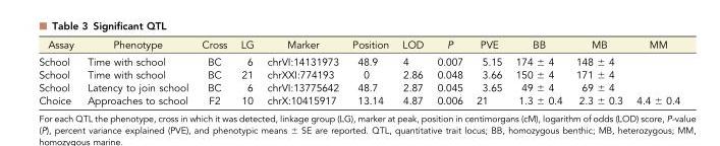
<table><thead><tr><td>Assay</td><td>Phenotype</td><td>Cross</td><td>LG</td><td>Marker</td><td>Position</td><td>LOD</td><td>P</td><td>PVE</td><td>BB</td><td>MB</td><td>MM</td></tr></thead><tbody><tr><td>School</td><td>Time with school</td><td>BC</td><td>6</td><td>chrVI:14131973</td><td>48.9</td><td>4</td><td>0.007</td><td>5.15</td><td>174 ± 4</td><td>148 ± 4</td><td></td></tr><tr><td>School</td><td>Time with school</td><td>BC</td><td>21</td><td>chrXXI:774193</td><td>0</td><td>2.86</td><td>0.048</td><td>3.66</td><td>150 ± 4</td><td>171 ± 4</td><td></td></tr><tr><td>School</td><td>Latency to join school</td><td>BC</td><td>6</td><td>chrVI:13775642</td><td>48.7</td><td>2.87</td><td>0.045</td><td>3.65</td><td>49 ± 4</td><td>69 ± 4</td><td></td></tr><tr><td>Choice</td><td>Approaches to school</td><td>F2</td><td>10</td><td>chrX:10415917</td><td>13.14</td><td>4.87</td><td>0.006</td><td>21</td><td>1.3 ± 0.4</td><td>2.3 ± 0.3</td><td>4.4 ± 0.4</td></tr></tbody></table>